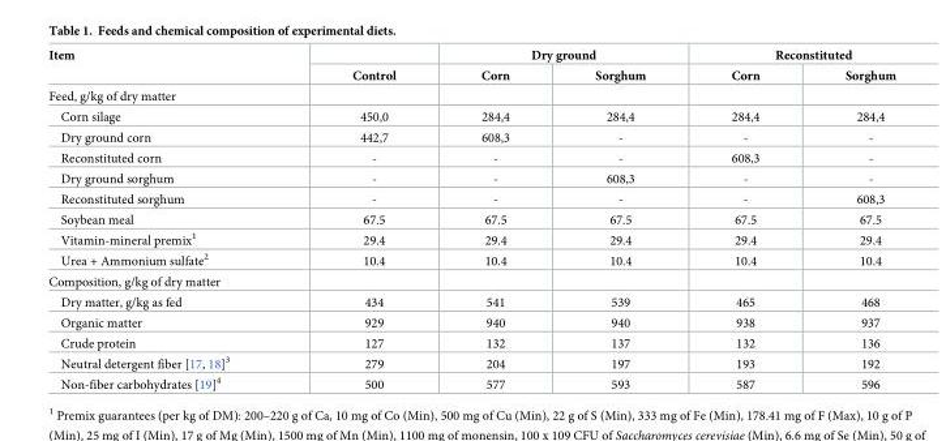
<table><thead><tr><td rowspan="2">Item</td><td rowspan="2">Control</td><td colspan="2">Dry ground</td><td colspan="2">Reconstituted</td></tr><tr><td>Corn</td><td>Sorghum</td><td>Corn</td><td>Sorghum</td></tr></thead><tbody><tr><td colspan="6">Feed, g/kg of dry matter</td></tr><tr><td>Corn silage</td><td>450,0</td><td>284,4</td><td>284,4</td><td>284,4</td><td>284,4</td></tr><tr><td>Dry ground corn</td><td>442,7</td><td>608,3</td><td>-</td><td>-</td><td>-</td></tr><tr><td>Reconstituted corn</td><td>-</td><td>-</td><td>-</td><td>608,3</td><td>-</td></tr><tr><td>Dry ground sorghum</td><td>-</td><td>-</td><td>608,3</td><td>-</td><td>-</td></tr><tr><td>Reconstituted sorghum</td><td>-</td><td>-</td><td>-</td><td>-</td><td>608,3</td></tr><tr><td>Soybean meal</td><td>67.5</td><td>67.5</td><td>67.5</td><td>67.5</td><td>67.5</td></tr><tr><td>Vitamin-mineral premix<sup>1</sup></td><td>29.4</td><td>29.4</td><td>29.4</td><td>29.4</td><td>29.4</td></tr><tr><td>Urea + Ammonium sulfate<sup>2</sup></td><td>10.4</td><td>10.4</td><td>10.4</td><td>10.4</td><td>10.4</td></tr><tr><td colspan="6">Composition, g/kg of dry matter</td></tr><tr><td>Dry matter, g/kg as fed</td><td>434</td><td>541</td><td>539</td><td>465</td><td>468</td></tr><tr><td>Organic matter</td><td>929</td><td>940</td><td>940</td><td>938</td><td>937</td></tr><tr><td>Crude protein</td><td>127</td><td>132</td><td>137</td><td>132</td><td>136</td></tr><tr><td>Neutral detergent fiber [17, 18]<sup>3</sup></td><td>279</td><td>204</td><td>197</td><td>193</td><td>192</td></tr><tr><td>Non-fiber carbohydrates [19]<sup>4</sup></td><td>500</td><td>577</td><td>593</td><td>587</td><td>596</td></tr></tbody></table>